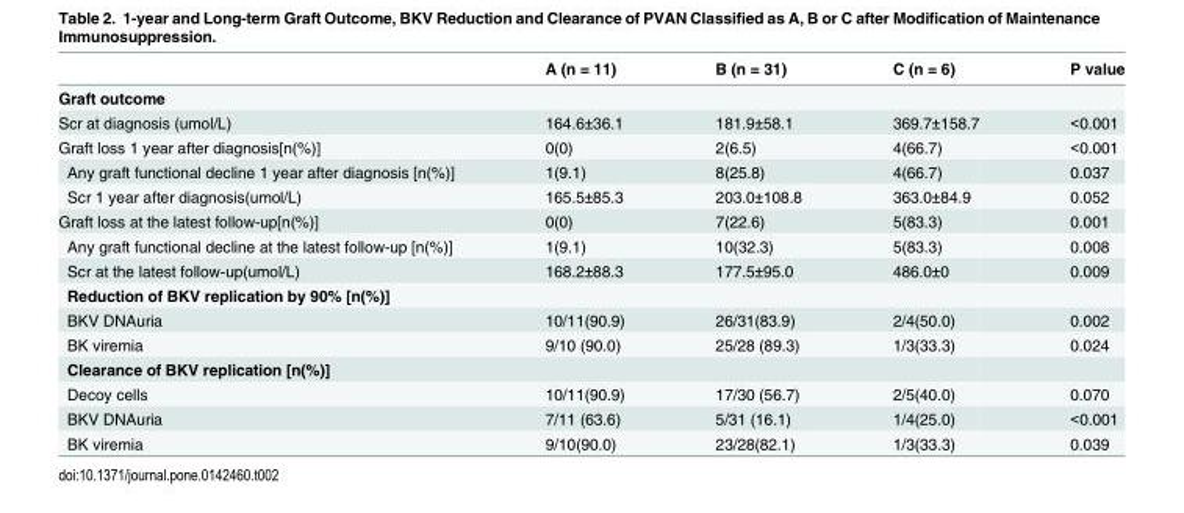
<table><thead><tr><td></td><td>A (n = 11)</td><td>B (n = 31)</td><td>C (n = 6)</td><td>P value</td></tr></thead><tbody><tr><td colspan="5">Graft outcome</td></tr><tr><td>Scr at diagnosis (umol/L)</td><td>164.6±36.1</td><td>181.9±58.1</td><td>369.7±158.7</td><td>&lt;0.001</td></tr><tr><td>Graft loss 1 year after diagnosis[n(%)]</td><td>0(0)</td><td>2(6.5)</td><td>4(66.7)</td><td>&lt;0.001</td></tr><tr><td>Any graft functional decline 1 year after diagnosis [n(%)]</td><td>1(9.1)</td><td>8(25.8)</td><td>4(66.7)</td><td>0.037</td></tr><tr><td>Scr 1 year after diagnosis(umol/L)</td><td>165.5±85.3</td><td>203.0±108.8</td><td>363.0±84.9</td><td>0.052</td></tr><tr><td>Graft loss at the latest follow-up[n(%)]</td><td>0(0)</td><td>7(22.6)</td><td>5(83.3)</td><td>0.001</td></tr><tr><td>Any graft functional decline at the latest follow-up [n(%)]</td><td>1(9.1)</td><td>10(32.3)</td><td>5(83.3)</td><td>0.008</td></tr><tr><td>Scr at the latest follow-up(umol/L)</td><td>168.2±88.3</td><td>177.5±95.0</td><td>486.0±0</td><td>0.009</td></tr><tr><td colspan="5">Reduction of BKV replication by 90% [n(%)]</td></tr><tr><td>BKV DNAuria</td><td>10/11(90.9)</td><td>26/31(83.9)</td><td>2/4(50.0)</td><td>0.002</td></tr><tr><td>BK viremia</td><td>9/10 (90.0)</td><td>25/28 (89.3)</td><td>1/3(33.3)</td><td>0.024</td></tr><tr><td colspan="5">Clearance of BKV replication [n(%)]</td></tr><tr><td>Decoy cells</td><td>10/11(90.9)</td><td>17/30 (56.7)</td><td>2/5(40.0)</td><td>0.070</td></tr><tr><td>BKV DNAuria</td><td>7/11 (63.6)</td><td>5/31 (16.1)</td><td>1/4(25.0)</td><td>&lt;0.001</td></tr><tr><td>BK viremia</td><td>9/10(90.0)</td><td>23/28(82.1)</td><td>1/3(33.3)</td><td>0.039</td></tr></tbody></table>